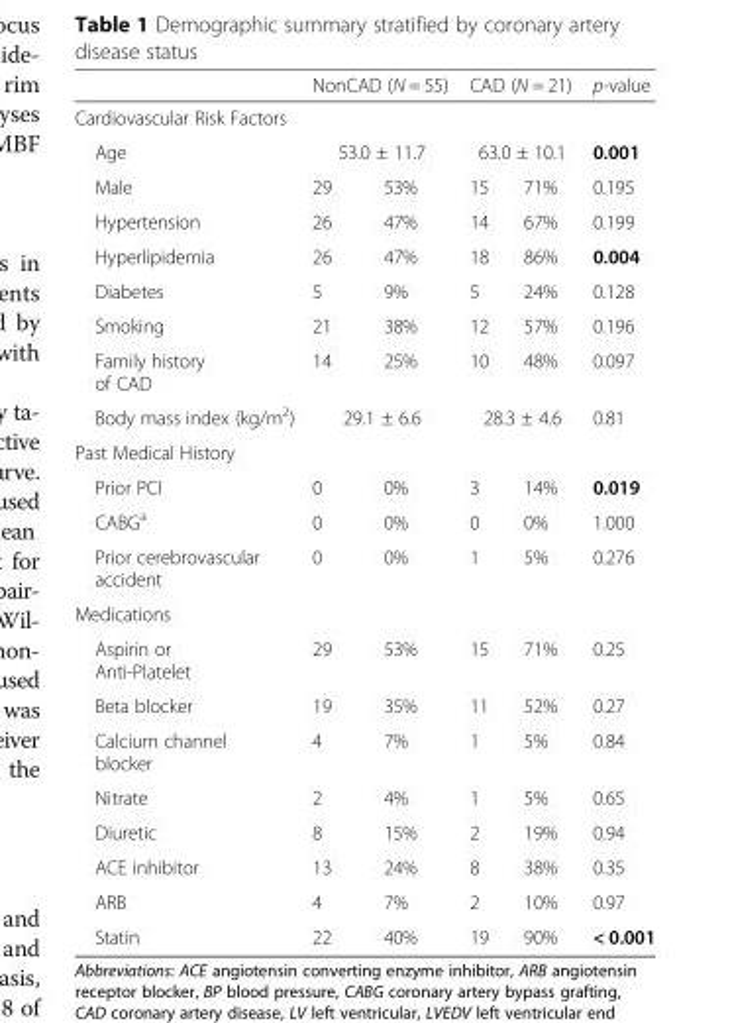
<table><thead><tr><td></td><td colspan="2">NonCAD (N = 55)</td><td colspan="2">CAD (N = 21)</td><td>p-value</td></tr><tr><td colspan="6">Cardiovascular Risk Factors</td></tr><tr><td rowspan="2">Age Male</td><td colspan="2">53.0 ± 11.7</td><td colspan="2">63.0 ± 10.1</td><td rowspan="2">0.001 0.195</td></tr><tr><td>29</td><td>53%</td><td>15</td><td>71%</td></tr></thead><tbody><tr><td>Hypertension</td><td>26</td><td>47%</td><td>14</td><td>67%</td><td>0.199</td></tr><tr><td>Hyperlipidemia</td><td>26</td><td>47%</td><td>18</td><td>86%</td><td>0.004</td></tr><tr><td>Diabetes</td><td>5</td><td>9%</td><td>5</td><td>24%</td><td>0.128</td></tr><tr><td>Smoking</td><td>21</td><td>38%</td><td>12</td><td>57%</td><td>0.196</td></tr><tr><td>Family history of CAD</td><td>14</td><td>25%</td><td>10</td><td>48%</td><td>0.097</td></tr><tr><td>Body mass index (kg/m<sup>2</sup>)</td><td colspan="2">29.1 ± 6.6</td><td colspan="2">28.3 ± 4.6</td><td>0.81</td></tr><tr><td colspan="6">Past Medical History</td></tr><tr><td>Prior PCI</td><td>0</td><td>0%</td><td>3</td><td>14%</td><td>0.019</td></tr><tr><td>CABG<sup>a</sup></td><td>0</td><td>0%</td><td>0</td><td>0%</td><td>1.000</td></tr><tr><td>Prior cerebrovascular accident</td><td>0</td><td>0%</td><td>1</td><td>5%</td><td>0.276</td></tr><tr><td colspan="6">Medications</td></tr><tr><td>Aspirin or Anti-Platelet</td><td>29</td><td>53%</td><td>15</td><td>71%</td><td>0.25</td></tr><tr><td>Beta blocker</td><td>19</td><td>35%</td><td>11</td><td>52%</td><td>0.27</td></tr><tr><td>Calcium channel blocker</td><td>4</td><td>7%</td><td>1</td><td>5%</td><td>0.84</td></tr><tr><td>Nitrate</td><td>2</td><td>4%</td><td>1</td><td>5%</td><td>0.65</td></tr><tr><td>Diuretic</td><td>8</td><td>15%</td><td>2</td><td>19%</td><td>0.94</td></tr><tr><td>ACE inhibitor</td><td>13</td><td>24%</td><td>8</td><td>38%</td><td>0.35</td></tr><tr><td>ARB</td><td>4</td><td>7%</td><td>2</td><td>10%</td><td>0.97</td></tr><tr><td>Statin</td><td>22</td><td>40%</td><td>19</td><td>90%</td><td>&lt; 0.001</td></tr></tbody></table>